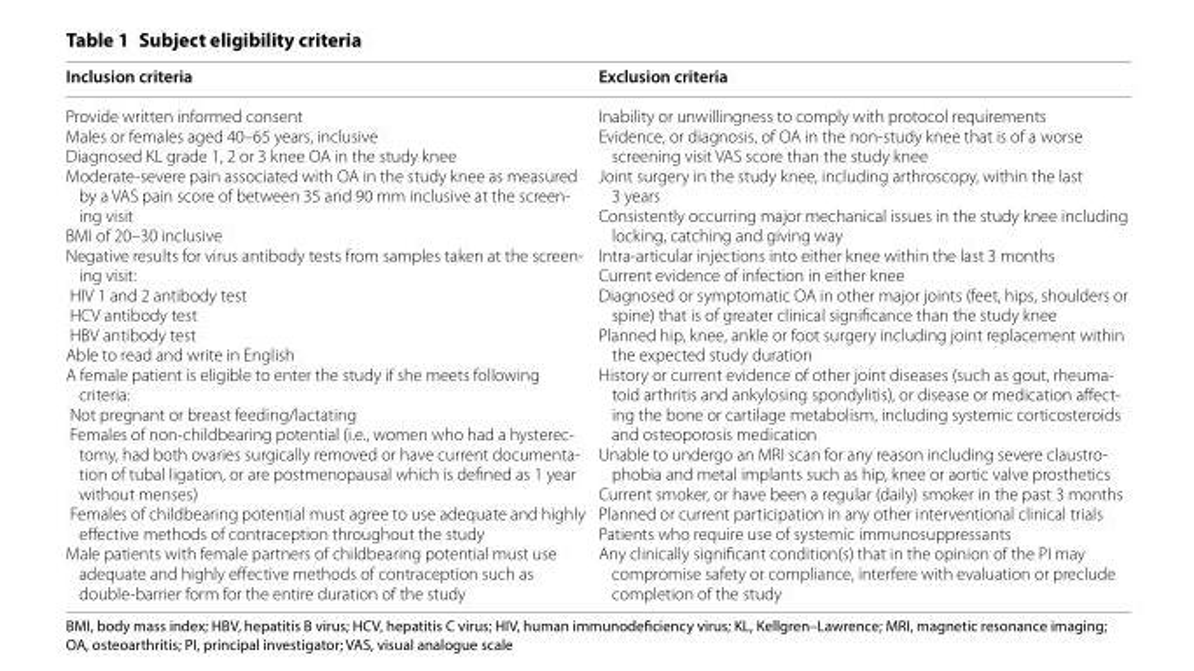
<table><thead><tr><td>Inclusion criteria</td><td>Exclusion criteria</td></tr></thead><tbody><tr><td>Provide written informed consent Males or females aged 40–65 years, inclusive Diagnosed KL grade 1, 2 or 3 knee OA in the study knee Moderate-severe pain associated with OA in the study knee as measured by a VAS pain score of between 35 and 90 mm inclusive at the screen- ing visit BMI of 20–30 inclusive Negative results for virus antibody tests from samples taken at the screen- ing visit: HIV 1 and 2 antibody test HCV antibody test HBV antibody test Able to read and write in English A female patient is eligible to enter the study if she meets following criteria: Not pregnant or breast feeding/lactating Females of non-childbearing potential (i.e., women who had a hysterec- tomy, had both ovaries surgically removed or have current documenta- tion of tubal ligation, or are postmenopausal which is defined as 1 year without menses) Females of childbearing potential must agree to use adequate and highly effective methods of contraception throughout the study Male patients with female partners of childbearing potential must use adequate and highly effective methods of contraception such as double-barrier form for the entire duration of the study</td><td>Inability or unwillingness to comply with protocol requirements Evidence, or diagnosis, of OA in the non-study knee that is of a worse screening visit VAS score than the study knee Joint surgery in the study knee, including arthroscopy, within the last 3 years Consistently occurring major mechanical issues in the study knee including locking, catching and giving way Intra-articular injections into either knee within the last 3 months Current evidence of infection in either knee Diagnosed or symptomatic OA in other major joints (feet, hips, shoulders or spine) that is of greater clinical significance than the study knee Planned hip, knee, ankle or foot surgery including joint replacement within the expected study duration History or current evidence of other joint diseases (such as gout, rheuma- toid arthritis and ankylosing spondylitis), or disease or medication affect- ing the bone or cartilage metabolism, including systemic corticosteroids and osteoporosis medication Unable to undergo an MRI scan for any reason including severe claustro- phobia and metal implants such as hip, knee or aortic valve prosthetics Current smoker, or have been a regular (daily) smoker in the past 3 months Planned or current participation in any other interventional clinical trials Patients who require use of systemic immunosuppressants Any clinically significant condition(s) that in the opinion of the PI may compromise safety or compliance, interfere with evaluation or preclude completion of the study</td></tr></tbody></table>